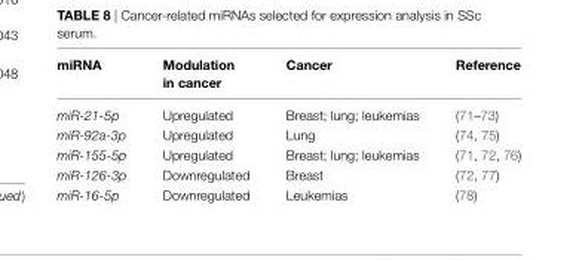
<table><thead><tr><td>mirna</td><td>Modulation in cancer</td><td>cancer</td><td>reference</td></tr></thead><tbody><tr><td>miR-21-5p</td><td>Upregulated</td><td>Breast; lung; leukemias</td><td>(71–73)</td></tr><tr><td>miR-92a-3p</td><td>Upregulated</td><td>Lung</td><td>(74, 75)</td></tr><tr><td>miR-155-5p</td><td>Upregulated</td><td>Breast; lung; leukemias</td><td>(71, 72, 76)</td></tr><tr><td>miR-126-3p</td><td>Downregulated</td><td>Breast</td><td>(72, 77)</td></tr><tr><td>miR-16-5p</td><td>Downregulated</td><td>Leukemias</td><td>(78)</td></tr></tbody></table>